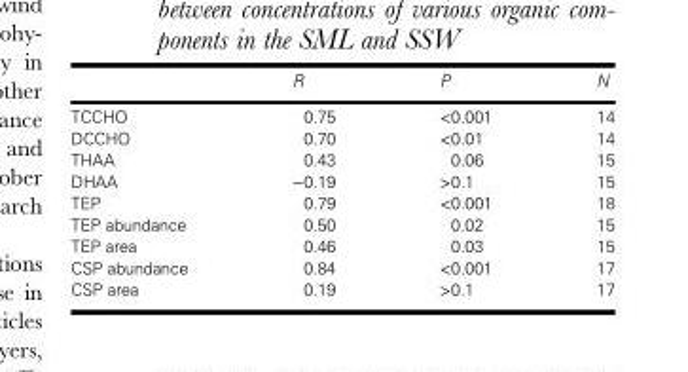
<table><thead><tr><td></td><td>R</td><td>P</td><td>N</td></tr></thead><tbody><tr><td>TCCHO</td><td>0.75</td><td>&lt;0.001</td><td>14</td></tr><tr><td>DCCHO</td><td>0.70</td><td>&lt;0.01</td><td>14</td></tr><tr><td>THAA</td><td>0.43</td><td>0.06</td><td>15</td></tr><tr><td>DHAA</td><td>−0.19</td><td>&gt;0.1</td><td>15</td></tr><tr><td>TEP</td><td>0.79</td><td>&lt;0.001</td><td>18</td></tr><tr><td>TEP abundance</td><td>0.50</td><td>0.02</td><td>15</td></tr><tr><td>TEP area</td><td>0.46</td><td>0.03</td><td>15</td></tr><tr><td>CSP abundance</td><td>0.84</td><td>&lt;0.001</td><td>17</td></tr><tr><td>CSP area</td><td>0.19</td><td>&gt;0.1</td><td>17</td></tr></tbody></table>